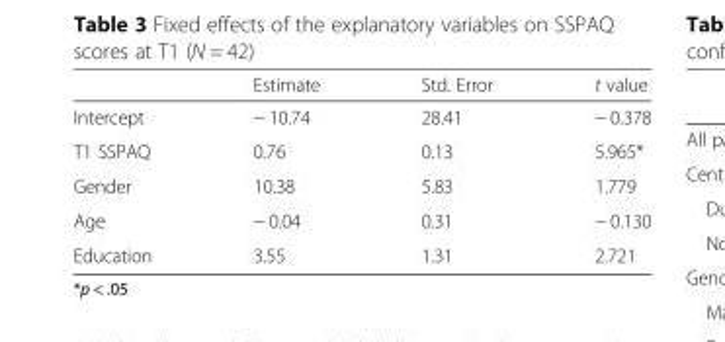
<table><thead><tr><td></td><td>Estimate</td><td>Std. Error</td><td>t value</td></tr></thead><tbody><tr><td>Intercept</td><td>− 10.74</td><td>28.41</td><td>− 0.378</td></tr><tr><td>T1 SSPAQ</td><td>0.76</td><td>0.13</td><td>5.965*</td></tr><tr><td>Gender</td><td>10.38</td><td>5.83</td><td>1.779</td></tr><tr><td>Age</td><td>− 0.04</td><td>0.31</td><td>− 0.130</td></tr><tr><td>Education</td><td>3.55</td><td>1.31</td><td>2.721</td></tr></tbody></table>